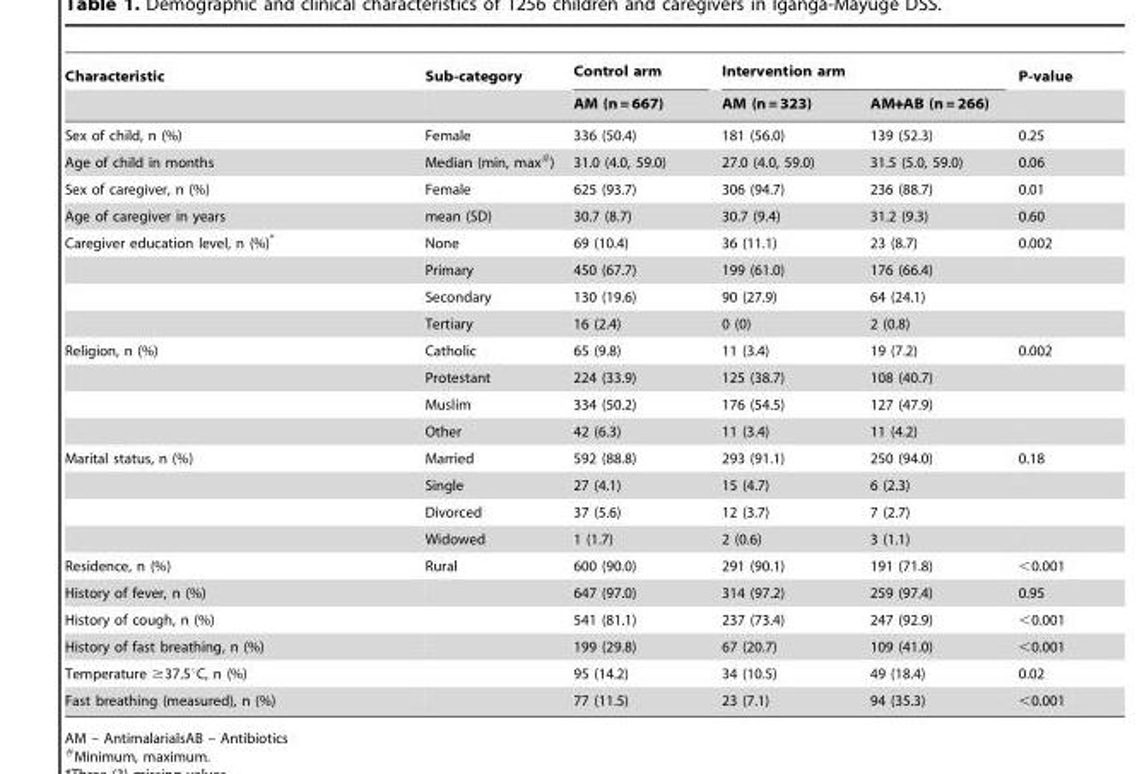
<table><thead><tr><td rowspan="2">Characteristic</td><td rowspan="2">Sub-category</td><td rowspan="2">Control arm AM (n = 667)</td><td colspan="2">Intervention arm</td><td rowspan="2">P-value</td></tr><tr><td>AM (n = 323)</td><td>AM+AB (n = 266)</td></tr></thead><tbody><tr><td>Sex of child, n (%)</td><td>Female</td><td>336 (50.4)</td><td>181 (56.0)</td><td>139 (52.3)</td><td>0.25</td></tr><tr><td>Age of child in months</td><td>Median (min, max#)</td><td>31.0 (4.0, 59.0)</td><td>27.0 (4.0, 59.0)</td><td>31.5 (5.0, 59.0)</td><td>0.06</td></tr><tr><td>Sex of caregiver, n (%)</td><td>Female</td><td>625 (93.7)</td><td>306 (94.7)</td><td>236 (88.7)</td><td>0.01</td></tr><tr><td>Age of caregiver in years</td><td>mean (SD)</td><td>30.7 (8.7)</td><td>30.7 (9.4)</td><td>31.2 (9.3)</td><td>0.60</td></tr><tr><td rowspan="4">Caregiver education level, n (%)*</td><td>None</td><td>69 (10.4)</td><td>36 (11.1)</td><td>23 (8.7)</td><td>0.002</td></tr><tr><td>Primary</td><td>450 (67.7)</td><td>199 (61.0)</td><td>176 (66.4)</td><td></td></tr><tr><td>Secondary</td><td>130 (19.6)</td><td>90 (27.9)</td><td>64 (24.1)</td><td></td></tr><tr><td>Tertiary</td><td>16 (2.4)</td><td>0 (0)</td><td>2 (0.8)</td><td></td></tr><tr><td rowspan="4">Religion, n (%)</td><td>Catholic</td><td>65 (9.8)</td><td>11 (3.4)</td><td>19 (7.2)</td><td>0.002</td></tr><tr><td>Protestant</td><td>224 (33.9)</td><td>125 (38.7)</td><td>108 (40.7)</td><td></td></tr><tr><td>Muslim</td><td>334 (50.2)</td><td>176 (54.5)</td><td>127 (47.9)</td><td></td></tr><tr><td>Other</td><td>42 (6.3)</td><td>11 (3.4)</td><td>11 (4.2)</td><td></td></tr><tr><td rowspan="4">Marital status, n (%)</td><td>Married</td><td>592 (88.8)</td><td>293 (91.1)</td><td>250 (94.0)</td><td>0.18</td></tr><tr><td>Single</td><td>27 (4.1)</td><td>15 (4.7)</td><td>6 (2.3)</td><td></td></tr><tr><td>Divorced</td><td>37 (5.6)</td><td>12 (3.7)</td><td>7 (2.7)</td><td></td></tr><tr><td>Widowed</td><td>1 (1.7)</td><td>2 (0.6)</td><td>3 (1.1)</td><td></td></tr><tr><td>Residence, n (%)</td><td>Rural</td><td>600 (90.0)</td><td>291 (90.1)</td><td>191 (71.8)</td><td>&lt;0.001</td></tr><tr><td>History of fever, n (%)</td><td></td><td>647 (97.0)</td><td>314 (97.2)</td><td>259 (97.4)</td><td>0.95</td></tr><tr><td>History of cough, n (%)</td><td></td><td>541 (81.1)</td><td>237 (73.4)</td><td>247 (92.9)</td><td>&lt;0.001</td></tr><tr><td>History of fast breathing, n (%)</td><td></td><td>199 (29.8)</td><td>67 (20.7)</td><td>109 (41.0)</td><td>&lt;0.001</td></tr><tr><td>Temperature ≥37.5°C, n (%)</td><td></td><td>95 (14.2)</td><td>34 (10.5)</td><td>49 (18.4)</td><td>0.02</td></tr><tr><td>Fast breathing (measured), n (%)</td><td></td><td>77 (11.5)</td><td>23 (7.1)</td><td>94 (35.3)</td><td>&lt;0.001</td></tr></tbody></table>